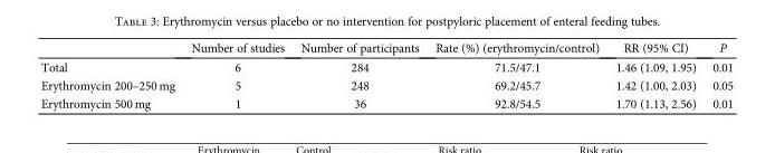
<table><thead><tr><td></td><td>Number of studies</td><td>Number of participants</td><td>Rate (%) (erythromycin/control)</td><td>RR (95% CI)</td><td>P</td></tr></thead><tbody><tr><td>Total</td><td>6</td><td>284</td><td>71.5/47.1</td><td>1.46 (1.09, 1.95)</td><td>0.01</td></tr><tr><td>Erythromycin 200–250 mg</td><td>5</td><td>248</td><td>69.2/45.7</td><td>1.42 (1.00, 2.03)</td><td>0.05</td></tr><tr><td>Erythromycin 500 mg</td><td>1</td><td>36</td><td>92.8/54.5</td><td>1.70 (1.13, 2.56)</td><td>0.01</td></tr></tbody></table>